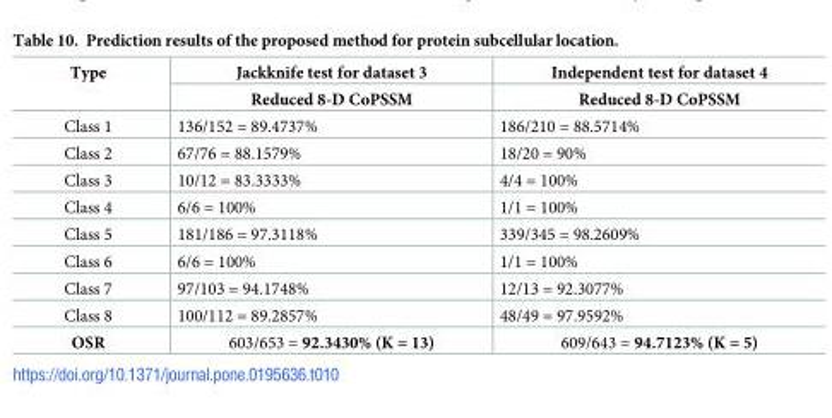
<table><thead><tr><td rowspan="2">Type</td><td rowspan="2">Jackknife test for dataset 3 Reduced 8-D CoPSSM</td><td rowspan="2">Independent test for dataset 4 Reduced 8-D CoPSSM</td></tr><tr></tr></thead><tbody><tr><td>Class 1</td><td>136/152 = 89.4737%</td><td>186/210 = 88.5714%</td></tr><tr><td>Class 2</td><td>67/76 = 88.1579%</td><td>18/20 = 90%</td></tr><tr><td>Class 3</td><td>10/12 = 83.3333%</td><td>4/4 = 100%</td></tr><tr><td>Class 4</td><td>6/6 = 100%</td><td>1/1 = 100%</td></tr><tr><td>Class 5</td><td>181/186 = 97.3118%</td><td>339/345 = 98.2609%</td></tr><tr><td>Class 6</td><td>6/6 = 100%</td><td>1/1 = 100%</td></tr><tr><td>Class 7</td><td>97/103 = 94.1748%</td><td>12/13 = 92.3077%</td></tr><tr><td>Class 8</td><td>100/112 = 89.2857%</td><td>48/49 = 97.9592%</td></tr><tr><td>OSR</td><td>603/653 = 92.3430% (K = 13)</td><td>609/643 = 94.7123% (K = 5)</td></tr></tbody></table>